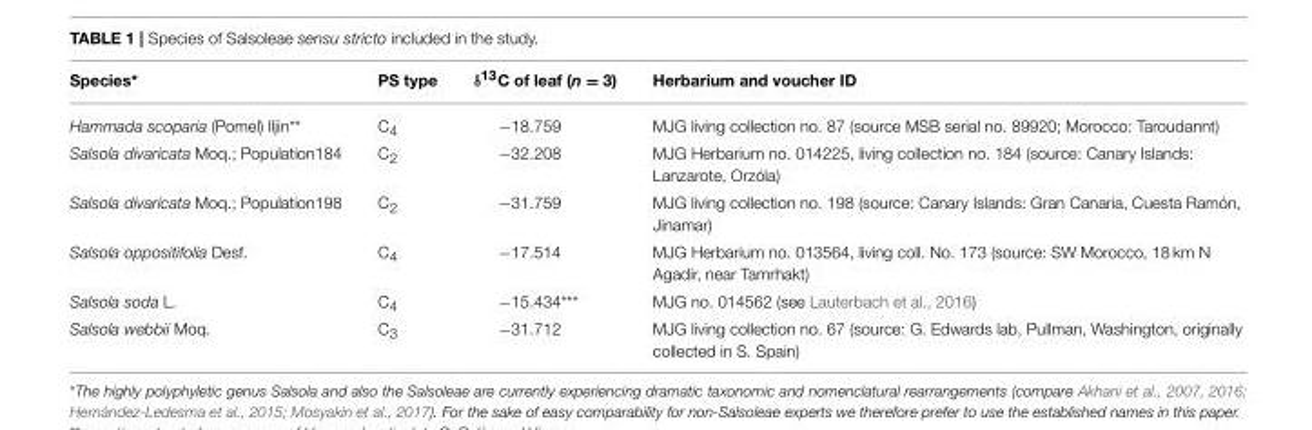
<table><thead><tr><td>Species*</td><td>PS type</td><td>δ<sup>13</sup>C of leaf (n = 3)</td><td>Herbarium and voucher ID</td></tr></thead><tbody><tr><td>Hammada scoparia (Pomel) Iljin**</td><td>C<sub>4</sub></td><td>−18.759</td><td>MJG living collection no. 87 (source MSB serial no. 89920; Morocco: Taroudannt)</td></tr><tr><td>Salsola divaricata Moq.; Population184</td><td>C<sub>2</sub></td><td>−32.208</td><td>MJG Herbarium no. 014225, living collection no. 184 (source: Canary Islands: Lanzarote, Orzóla)</td></tr><tr><td>Salsola divaricata Moq.; Population198</td><td>C<sub>2</sub></td><td>−31.759</td><td>MJG living collection no. 198 (source: Canary Islands: Gran Canaria, Cuesta Ramón, Jinamar)</td></tr><tr><td>Salsola oppositifolia Desf.</td><td>C<sub>4</sub></td><td>−17.514</td><td>MJG Herbarium no. 013564, living coll. No. 173 (source: SW Morocco, 18 km N Agadir, near Tamrhakt)</td></tr><tr><td>Salsola soda L.</td><td>C<sub>4</sub></td><td>−15.434***</td><td>MJG no. 014562 (see Lauterbach et al., 2016)</td></tr><tr><td>Salsola webbii Moq.</td><td>C<sub>3</sub></td><td>−31.712</td><td>MJG living collection no. 67 (source: G. Edwards lab, Pullman, Washington, originally collected in S. Spain)</td></tr></tbody></table>